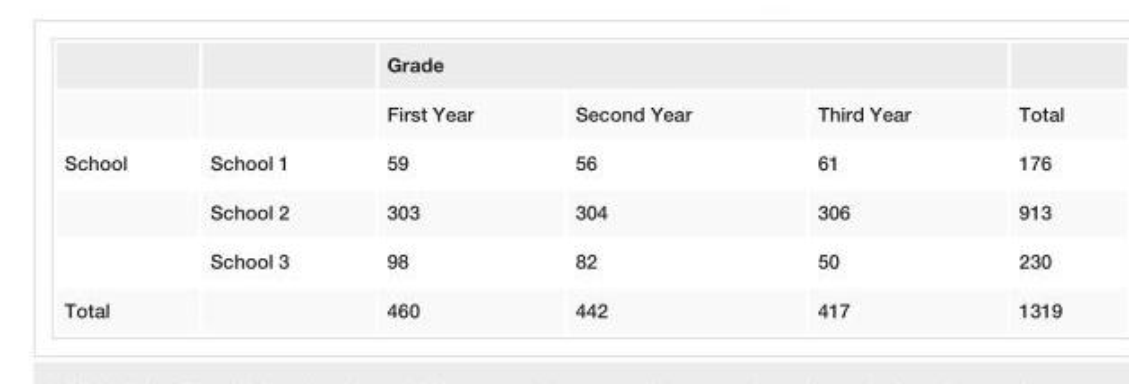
<table><thead><tr><td rowspan="2"></td><td rowspan="2"></td><td colspan="3">Grade</td><td rowspan="2">Total</td></tr><tr><td>First Year</td><td>Second Year</td><td>Third Year</td></tr></thead><tbody><tr><td rowspan="3">School</td><td>School 1</td><td>59</td><td>56</td><td>61</td><td>176</td></tr><tr><td>School 2</td><td>303</td><td>304</td><td>306</td><td>913</td></tr><tr><td>School 3</td><td>98</td><td>82</td><td>50</td><td>230</td></tr><tr><td>Total</td><td></td><td>460</td><td>442</td><td>417</td><td>1319</td></tr></tbody></table>